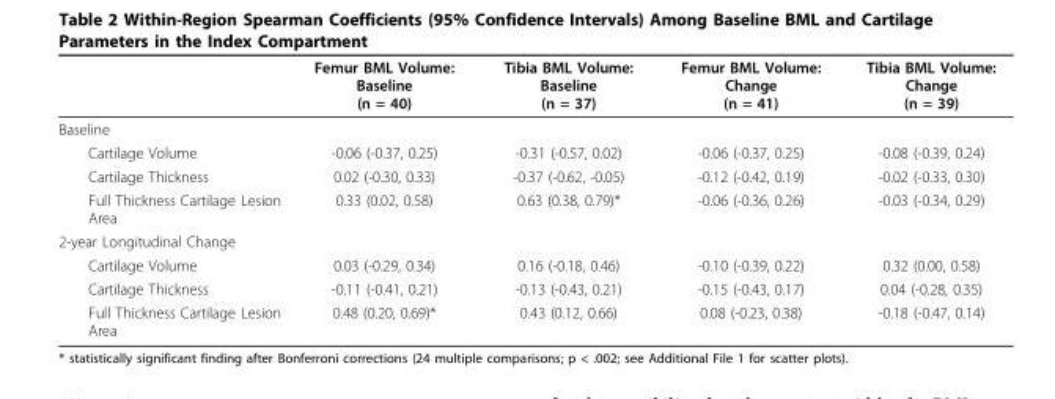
<table><thead><tr><td></td><td>Femur BML Volume: Baseline (n = 40)</td><td>Tibia BML Volume: Baseline (n = 37)</td><td>Femur BML Volume: Change (n = 41)</td><td>Tibia BML Volume: Change (n = 39)</td></tr></thead><tbody><tr><td colspan="5">Baseline</td></tr><tr><td>Cartilage Volume</td><td>-0.06 (-0.37, 0.25)</td><td>-0.31 (-0.57, 0.02)</td><td>-0.06 (-0.37, 0.25)</td><td>-0.08 (-0.39, 0.24)</td></tr><tr><td>Cartilage Thickness</td><td>0.02 (-0.30, 0.33)</td><td>-0.37 (-0.62, -0.05)</td><td>-0.12 (-0.42, 0.19)</td><td>-0.02 (-0.33, 0.30)</td></tr><tr><td>Full Thickness Cartilage Lesion Area</td><td>0.33 (0.02, 0.58)</td><td>0.63 (0.38, 0.79)*</td><td>-0.06 (-0.36, 0.26)</td><td>-0.03 (-0.34, 0.29)</td></tr><tr><td colspan="5">2-year Longitudinal Change</td></tr><tr><td>Cartilage Volume</td><td>0.03 (-0.29, 0.34)</td><td>0.16 (-0.18, 0.46)</td><td>-0.10 (-0.39, 0.22)</td><td>0.32 (0.00, 0.58)</td></tr><tr><td>Cartilage Thickness</td><td>-0.11 (-0.41, 0.21)</td><td>-0.13 (-0.43, 0.21)</td><td>-0.15 (-0.43, 0.17)</td><td>0.04 (-0.28, 0.35)</td></tr><tr><td>Full Thickness Cartilage Lesion Area</td><td>0.48 (0.20, 0.69)*</td><td>0.43 (0.12, 0.66)</td><td>0.08 (-0.23, 0.38)</td><td>-0.18 (-0.47, 0.14)</td></tr></tbody></table>